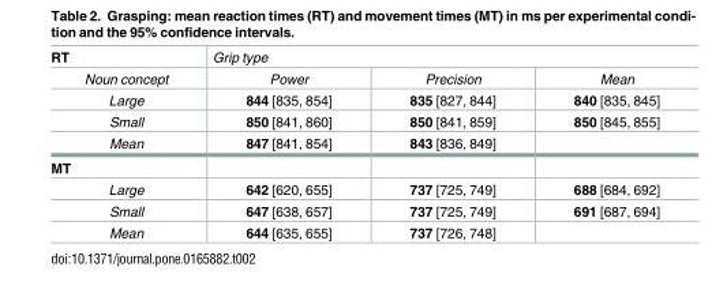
<table><tbody><tr><td>RT</td><td colspan="3">Grip type</td></tr><tr><td>Noun concept</td><td>Power</td><td>Precision</td><td>Mean</td></tr><tr><td>Large</td><td>844 [835, 854]</td><td>835 [827, 844]</td><td>840 [835, 845]</td></tr><tr><td>Small</td><td>850 [841, 860]</td><td>850 [841, 859]</td><td>850 [845, 855]</td></tr><tr><td>Mean</td><td>847 [841, 854]</td><td>843 [836, 849]</td><td></td></tr><tr><td colspan="4">MT</td></tr><tr><td>Large</td><td>642 [620, 655]</td><td>737 [725, 749]</td><td>688 [684, 692]</td></tr><tr><td>Small</td><td>647 [638, 657]</td><td>737 [725, 749]</td><td>691 [687, 694]</td></tr><tr><td>Mean</td><td>644 [635, 655]</td><td>737 [726, 748]</td><td></td></tr></tbody></table>